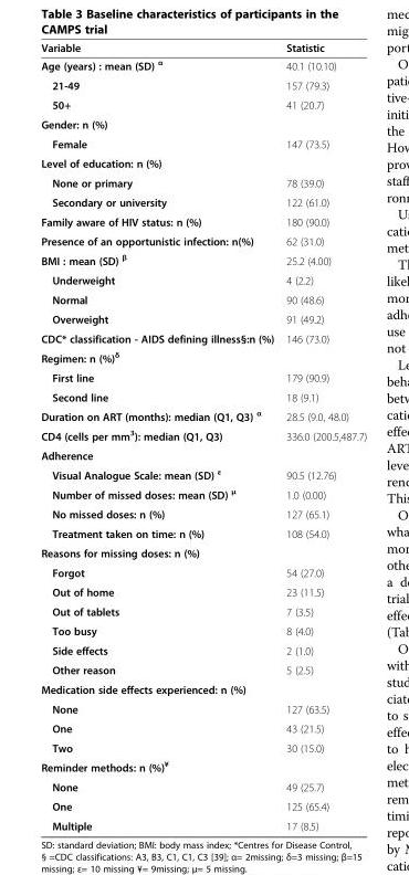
<table><thead><tr><td>Variable</td><td>Statistic</td></tr></thead><tbody><tr><td>Age (years) : mean (SD) <sup>α</sup></td><td>40.1 (10.10)</td></tr><tr><td>21-49</td><td>157 (79.3)</td></tr><tr><td>50+</td><td>41 (20.7)</td></tr><tr><td colspan="2">Gender: n (%)</td></tr><tr><td>Female</td><td>147 (73.5)</td></tr><tr><td colspan="2">Level of education: n (%)</td></tr><tr><td>None or primary</td><td>78 (39.0)</td></tr><tr><td>Secondary or university</td><td>122 (61.0)</td></tr><tr><td>Family aware of HIV status: n (%)</td><td>180 (90.0)</td></tr><tr><td>Presence of an opportunistic infection: n(%)</td><td>62 (31.0)</td></tr><tr><td>BMI : mean (SD) <sup>β</sup></td><td>25.2 (4.00)</td></tr><tr><td>Underweight</td><td>4 (2.2)</td></tr><tr><td>Normal</td><td>90 (48.6)</td></tr><tr><td>Overweight</td><td>91 (49.2)</td></tr><tr><td>CDC* classification - AIDS defining illness§:n (%)</td><td>146 (73.0)</td></tr><tr><td colspan="2">Regimen: n (%)<sup>δ</sup></td></tr><tr><td>First line</td><td>179 (90.9)</td></tr><tr><td>Second line</td><td>18 (9.1)</td></tr><tr><td>Duration on ART (months): median (Q1, Q3) <sup>α</sup></td><td>28.5 (9.0, 48.0)</td></tr><tr><td>CD4 (cells per mm<sup>3</sup>): median (Q1, Q3)</td><td>336.0 (200.5,487.7)</td></tr><tr><td colspan="2">Adherence</td></tr><tr><td>Visual Analogue Scale: mean (SD) <sup>ε</sup></td><td>90.5 (12.76)</td></tr><tr><td>Number of missed doses: mean (SD) <sup>μ</sup></td><td>1.0 (0.00)</td></tr><tr><td>No missed doses: n (%)</td><td>127 (65.1)</td></tr><tr><td>Treatment taken on time: n (%)</td><td>108 (54.0)</td></tr><tr><td colspan="2">Reasons for missing doses: n (%)</td></tr><tr><td>Forgot</td><td>54 (27.0)</td></tr><tr><td>Out of home</td><td>23 (11.5)</td></tr><tr><td>Out of tablets</td><td>7 (3.5)</td></tr><tr><td>Too busy</td><td>8 (4.0)</td></tr><tr><td>Side effects</td><td>2 (1.0)</td></tr><tr><td>Other reason</td><td>5 (2.5)</td></tr><tr><td colspan="2">Medication side effects experienced: n (%)</td></tr><tr><td>None</td><td>127 (63.5)</td></tr><tr><td>One</td><td>43 (21.5)</td></tr><tr><td>Two</td><td>30 (15.0)</td></tr><tr><td colspan="2">Reminder methods: n (%)<sup>¥</sup></td></tr><tr><td>None</td><td>49 (25.7)</td></tr><tr><td>One</td><td>125 (65.4)</td></tr><tr><td>Multiple</td><td>17 (8.5)</td></tr></tbody></table>